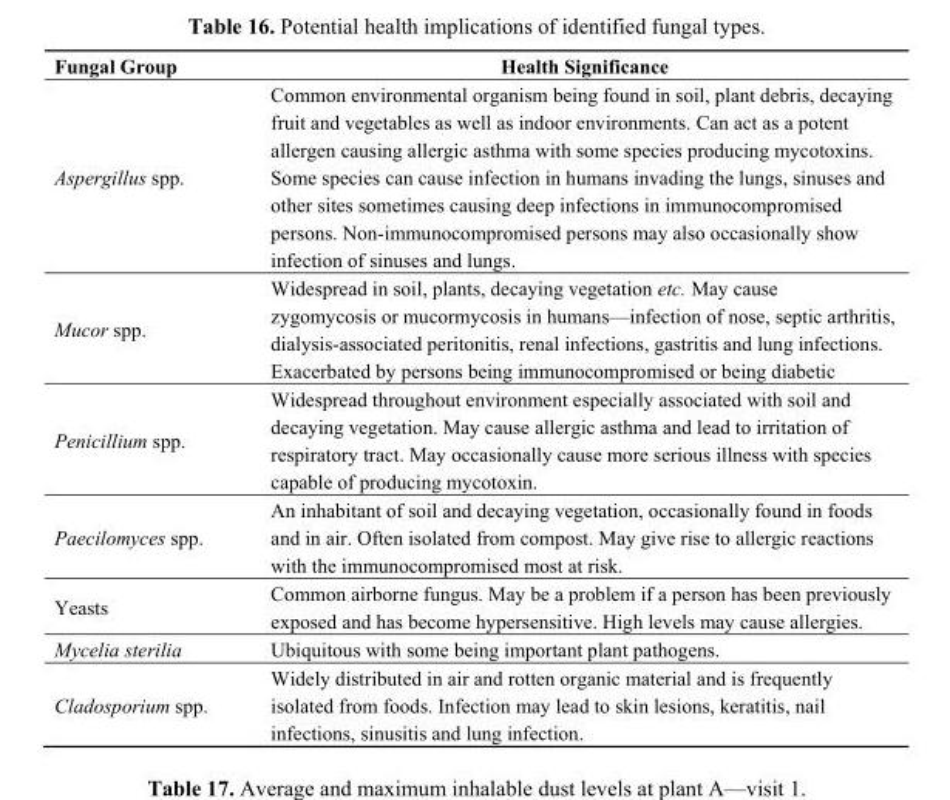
<table><thead><tr><td>Fungal Group</td><td>Health Significance</td></tr></thead><tbody><tr><td>Aspergillus spp.</td><td>Common environmental organism being found in soil, plant debris, decaying fruit and vegetables as well as indoor environments. Can act as a potent allergen causing allergic asthma with some species producing mycotoxins. Some species can cause infection in humans invading the lungs, sinuses and other sites sometimes causing deep infections in immunocompromised persons. Non-immunocompromised persons may also occasionally show infection of sinuses and lungs.</td></tr><tr><td>Mucor spp.</td><td>Widespread in soil, plants, decaying vegetation etc. May cause zygomycosis or mucormycosis in humans—infection of nose, septic arthritis, dialysis-associated peritonitis, renal infections, gastritis and lung infections. Exacerbated by persons being immunocompromised or being diabetic</td></tr><tr><td>Penicillium spp.</td><td>Widespread throughout environment especially associated with soil and decaying vegetation. May cause allergic asthma and lead to irritation of respiratory tract. May occasionally cause more serious illness with species capable of producing mycotoxin.</td></tr><tr><td>Paecilomyces spp.</td><td>An inhabitant of soil and decaying vegetation, occasionally found in foods and in air. Often isolated from compost. May give rise to allergic reactions with the immunocompromised most at risk.</td></tr><tr><td>Yeasts</td><td>Common airborne fungus. May be a problem if a person has been previously exposed and has become hypersensitive. High levels may cause allergies.</td></tr><tr><td>Mycelia sterilia</td><td>Ubiquitous with some being important plant pathogens.</td></tr><tr><td>Cladosporium spp.</td><td>Widely distributed in air and rotten organic material and is frequently isolated from foods. Infection may lead to skin lesions, keratitis, nail infections, sinusitis and lung infection.</td></tr></tbody></table>